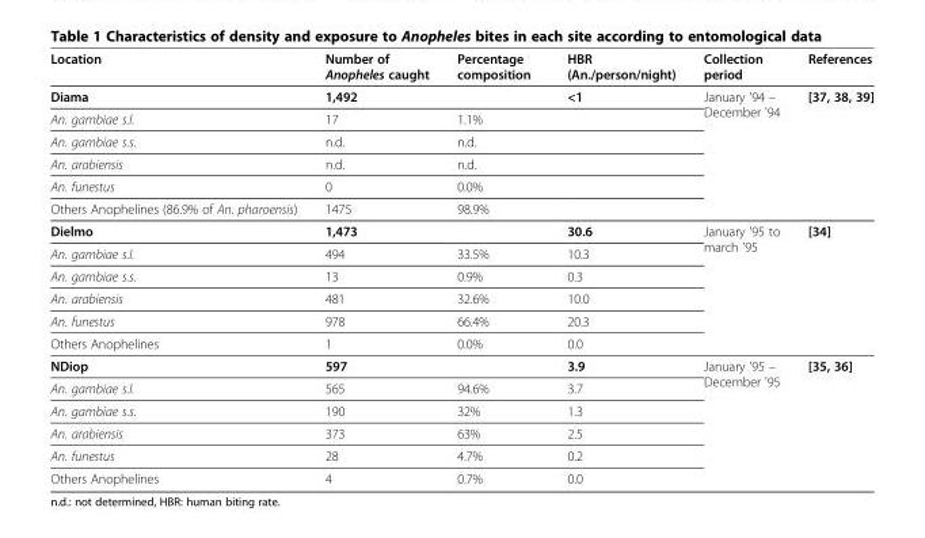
<table><thead><tr><td>Location</td><td>Number of Anopheles caught</td><td>Percentage composition</td><td>HBR (An./person/night)</td><td>Collection period</td><td>References</td></tr></thead><tbody><tr><td>Diama</td><td>1,492</td><td></td><td>&lt;1</td><td rowspan="6">January &#x27;94 – December &#x27;94</td><td rowspan="6">[37, 38, 39]</td></tr><tr><td>An. gambiae s.l.</td><td>17</td><td>1.1%</td><td></td></tr><tr><td>An. gambiae s.s.</td><td>n.d.</td><td>n.d.</td><td></td></tr><tr><td>An. arabiensis</td><td>n.d.</td><td>n.d.</td><td></td></tr><tr><td>An. funestus</td><td>0</td><td>0.0%</td><td></td></tr><tr><td>Others Anophelines (86.9% of An. pharoensis)</td><td>1475</td><td>98.9%</td><td></td></tr><tr><td>Dielmo</td><td>1,473</td><td></td><td>30.6</td><td rowspan="6">January &#x27;95 to march &#x27;95</td><td rowspan="6">[34]</td></tr><tr><td>An. gambiae s.l.</td><td>494</td><td>33.5%</td><td>10.3</td></tr><tr><td>An. gambiae s.s.</td><td>13</td><td>0.9%</td><td>0.3</td></tr><tr><td>An. arabiensis</td><td>481</td><td>32.6%</td><td>10.0</td></tr><tr><td>An. funestus</td><td>978</td><td>66.4%</td><td>20.3</td></tr><tr><td>Others Anophelines</td><td>1</td><td>0.0%</td><td>0.0</td></tr><tr><td>NDiop</td><td>597</td><td></td><td>3.9</td><td rowspan="6">January &#x27;95 – December &#x27;95</td><td rowspan="6">[35, 36]</td></tr><tr><td>An. gambiae s.l.</td><td>565</td><td>94.6%</td><td>3.7</td></tr><tr><td>An. gambiae s.s.</td><td>190</td><td>32%</td><td>1.3</td></tr><tr><td>An. arabiensis</td><td>373</td><td>63%</td><td>2.5</td></tr><tr><td>An. funestus</td><td>28</td><td>4.7%</td><td>0.2</td></tr><tr><td>Others Anophelines</td><td>4</td><td>0.7%</td><td>0.0</td></tr></tbody></table>